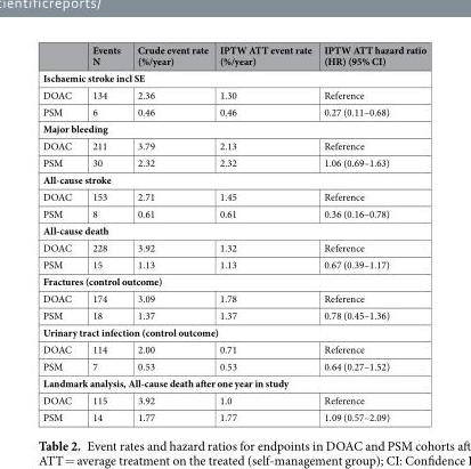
<table><thead><tr><td></td><td>Events N</td><td>Crude event rate (%/year)</td><td>IPTW ATT event rate (%/year)</td><td>IPTW ATT hazard ratio (HR) (95% CI)</td></tr></thead><tbody><tr><td colspan="5">Ischaemic stroke incl SE</td></tr><tr><td>DOAC</td><td>134</td><td>2.36</td><td>1.30</td><td>Reference</td></tr><tr><td>PSM</td><td>6</td><td>0.46</td><td>0.46</td><td>0.27 (0.11–0.68)</td></tr><tr><td colspan="5">Major bleeding</td></tr><tr><td>DOAC</td><td>211</td><td>3.79</td><td>2.13</td><td>Reference</td></tr><tr><td>PSM</td><td>30</td><td>2.32</td><td>2.32</td><td>1.06 (0.69–1.63)</td></tr><tr><td colspan="5">All-cause stroke</td></tr><tr><td>DOAC</td><td>153</td><td>2.71</td><td>1.45</td><td>Reference</td></tr><tr><td>PSM</td><td>8</td><td>0.61</td><td>0.61</td><td>0.36 (0.16–0.78)</td></tr><tr><td colspan="5">All-cause death</td></tr><tr><td>DOAC</td><td>228</td><td>3.92</td><td>1.32</td><td>Reference</td></tr><tr><td>PSM</td><td>15</td><td>1.13</td><td>1.13</td><td>0.67 (0.39–1.17)</td></tr><tr><td colspan="5">Fractures (control outcome)</td></tr><tr><td>DOAC</td><td>174</td><td>3.09</td><td>1.78</td><td>Reference</td></tr><tr><td>PSM</td><td>18</td><td>1.37</td><td>1.37</td><td>0.78 (0.45–1.36)</td></tr><tr><td colspan="5">Urinary tract infection (control outcome)</td></tr><tr><td>DOAC</td><td>114</td><td>2.00</td><td>0.71</td><td>Reference</td></tr><tr><td>PSM</td><td>7</td><td>0.53</td><td>0.53</td><td>0.64 (0.27–1.52)</td></tr><tr><td colspan="5">Landmark analysis, All-cause death after one year in study</td></tr><tr><td>DOAC</td><td>115</td><td>3.92</td><td>1.0</td><td>Reference</td></tr><tr><td>PSM</td><td>14</td><td>1.77</td><td>1.77</td><td>1.09 (0.57–2.09)</td></tr></tbody></table>